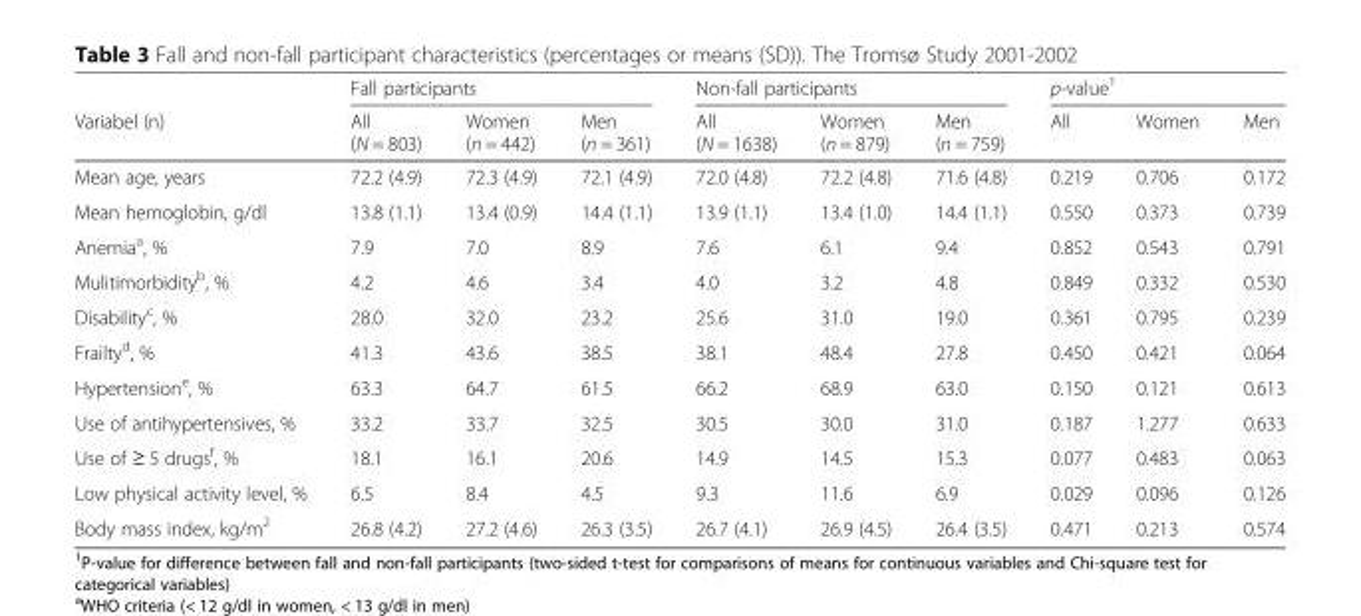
<table><thead><tr><td rowspan="2">Variabel (n)</td><td colspan="3">Fall participants</td><td colspan="3">Non-fall participants</td><td colspan="3">p-value<sup>1</sup></td></tr><tr><td>All (N = 803)</td><td>Women (n = 442)</td><td>Men (n = 361)</td><td>All (N = 1638)</td><td>Women (n = 879)</td><td>Men (n = 759)</td><td>All</td><td>Women</td><td>Men</td></tr></thead><tbody><tr><td>Mean age, years</td><td>72.2 (4.9)</td><td>72.3 (4.9)</td><td>72.1 (4.9)</td><td>72.0 (4.8)</td><td>72.2 (4.8)</td><td>71.6 (4.8)</td><td>0.219</td><td>0.706</td><td>0.172</td></tr><tr><td>Mean hemoglobin, g/dl</td><td>13.8 (1.1)</td><td>13.4 (0.9)</td><td>14.4 (1.1)</td><td>13.9 (1.1)</td><td>13.4 (1.0)</td><td>14.4 (1.1)</td><td>0.550</td><td>0.373</td><td>0.739</td></tr><tr><td>Anemia<sup>a</sup>, %</td><td>7.9</td><td>7.0</td><td>8.9</td><td>7.6</td><td>6.1</td><td>9.4</td><td>0.852</td><td>0.543</td><td>0.791</td></tr><tr><td>Mulitimorbidity<sup>b</sup>, %</td><td>4.2</td><td>4.6</td><td>3.4</td><td>4.0</td><td>3.2</td><td>4.8</td><td>0.849</td><td>0.332</td><td>0.530</td></tr><tr><td>Disability<sup>c</sup>, %</td><td>28.0</td><td>32.0</td><td>23.2</td><td>25.6</td><td>31.0</td><td>19.0</td><td>0.361</td><td>0.795</td><td>0.239</td></tr><tr><td>Frailty<sup>d</sup>, %</td><td>41.3</td><td>43.6</td><td>38.5</td><td>38.1</td><td>48.4</td><td>27.8</td><td>0.450</td><td>0.421</td><td>0.064</td></tr><tr><td>Hypertension<sup>e</sup>, %</td><td>63.3</td><td>64.7</td><td>61.5</td><td>66.2</td><td>68.9</td><td>63.0</td><td>0.150</td><td>0.121</td><td>0.613</td></tr><tr><td>Use of antihypertensives, %</td><td>33.2</td><td>33.7</td><td>32.5</td><td>30.5</td><td>30.0</td><td>31.0</td><td>0.187</td><td>1.277</td><td>0.633</td></tr><tr><td>Use of ≥ 5 drugs<sup>f</sup>, %</td><td>18.1</td><td>16.1</td><td>20.6</td><td>14.9</td><td>14.5</td><td>15.3</td><td>0.077</td><td>0.483</td><td>0.063</td></tr><tr><td>Low physical activity level, %</td><td>6.5</td><td>8.4</td><td>4.5</td><td>9.3</td><td>11.6</td><td>6.9</td><td>0.029</td><td>0.096</td><td>0.126</td></tr><tr><td>Body mass index, kg/m<sup>2</sup></td><td>26.8 (4.2)</td><td>27.2 (4.6)</td><td>26.3 (3.5)</td><td>26.7 (4.1)</td><td>26.9 (4.5)</td><td>26.4 (3.5)</td><td>0.471</td><td>0.213</td><td>0.574</td></tr></tbody></table>